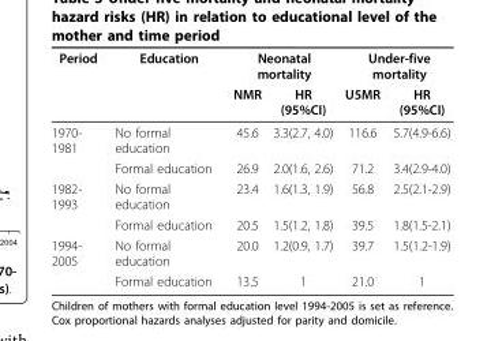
<table><thead><tr><td rowspan="2">Period</td><td rowspan="2">Education</td><td colspan="2">Neonatal mortality</td><td colspan="2">Under-five mortality</td></tr><tr><td>NMR</td><td>HR (95%CI)</td><td>U5MR</td><td>HR (95%CI)</td></tr></thead><tbody><tr><td rowspan="2">1970- 1981</td><td>No formal education</td><td>45.6</td><td>3.3(2.7, 4.0)</td><td>116.6</td><td>5.7(4.9-6.6)</td></tr><tr><td>Formal education</td><td>26.9</td><td>2.0(1.6, 2.6)</td><td>71.2</td><td>3.4(2.9-4.0)</td></tr><tr><td rowspan="2">1982- 1993</td><td>No formal education</td><td>23.4</td><td>1.6(1.3, 1.9)</td><td>56.8</td><td>2.5(2.1-2.9)</td></tr><tr><td>Formal education</td><td>20.5</td><td>1.5(1.2, 1.8)</td><td>39.5</td><td>1.8(1.5-2.1)</td></tr><tr><td rowspan="2">1994- 2005</td><td>No formal education</td><td>20.0</td><td>1.2(0.9, 1.7)</td><td>39.7</td><td>1.5(1.2-1.9)</td></tr><tr><td>Formal education</td><td>13.5</td><td>1</td><td>21.0</td><td>1</td></tr></tbody></table>